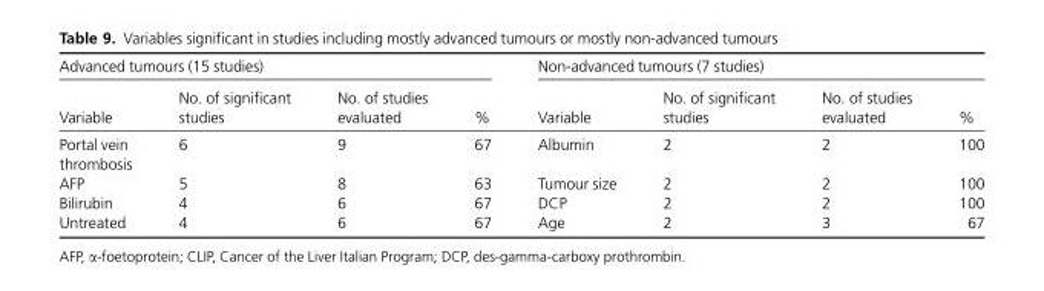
<table><thead><tr><td colspan="4">Advanced tumours (15 studies)</td><td colspan="4">Non-advanced tumours (7 studies)</td></tr><tr><td>Variable</td><td>No. of significant studies</td><td>No. of studies evaluated</td><td>%</td><td>Variable</td><td>No. of significant studies</td><td>No. of studies evaluated</td><td>%</td></tr></thead><tbody><tr><td>Portal vein thrombosis</td><td>6</td><td>9</td><td>67</td><td>Albumin</td><td>2</td><td>2</td><td>100</td></tr><tr><td>AFP</td><td>5</td><td>8</td><td>63</td><td>Tumour size</td><td>2</td><td>2</td><td>100</td></tr><tr><td>Bilirubin</td><td>4</td><td>6</td><td>67</td><td>DCP</td><td>2</td><td>2</td><td>100</td></tr><tr><td>Untreated</td><td>4</td><td>6</td><td>67</td><td>Age</td><td>2</td><td>3</td><td>67</td></tr></tbody></table>